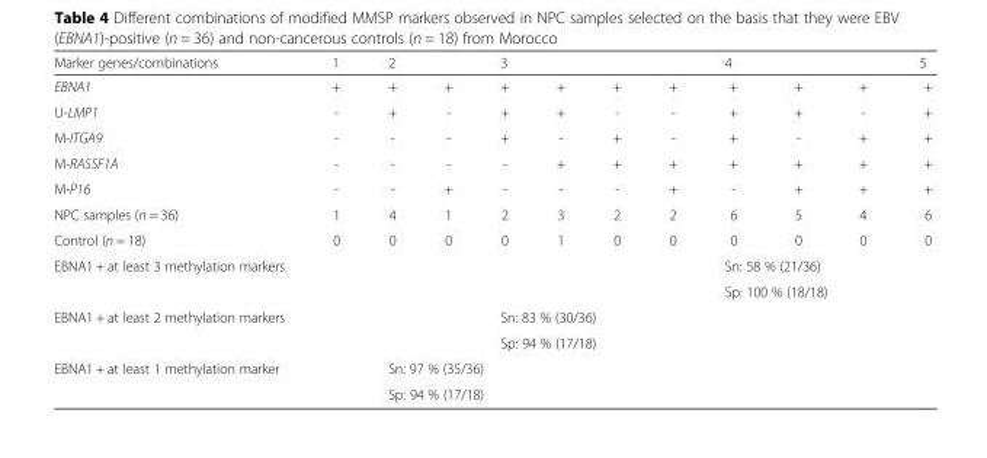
<table><thead><tr><td rowspan="2">Marker genes/combinations EBNA1</td><td rowspan="2">1 +</td><td colspan="2">2</td><td colspan="4">3</td><td colspan="3">4</td><td rowspan="2">5 +</td></tr><tr><td>+</td><td>+</td><td>+</td><td>+</td><td>+</td><td>+</td><td>+</td><td>+</td><td>+</td></tr></thead><tbody><tr><td>U-LMP1</td><td>-</td><td>+</td><td>-</td><td>+</td><td>+</td><td>-</td><td>-</td><td>+</td><td>+</td><td>-</td><td>+</td></tr><tr><td>M-ITGA9</td><td>-</td><td>-</td><td>-</td><td>+</td><td>-</td><td>+</td><td>-</td><td>+</td><td>-</td><td>+</td><td>+</td></tr><tr><td>M-RASSF1A</td><td>-</td><td>-</td><td>-</td><td>-</td><td>+</td><td>+</td><td>+</td><td>+</td><td>+</td><td>+</td><td>+</td></tr><tr><td>M-P16</td><td>-</td><td>-</td><td>+</td><td>-</td><td>-</td><td>-</td><td>+</td><td>-</td><td>+</td><td>+</td><td>+</td></tr><tr><td>NPC samples (n = 36)</td><td>1</td><td>4</td><td>1</td><td>2</td><td>3</td><td>2</td><td>2</td><td>6</td><td>5</td><td>4</td><td>6</td></tr><tr><td>Control (n = 18)</td><td>0</td><td>0</td><td>0</td><td>0</td><td>1</td><td>0</td><td>0</td><td>0</td><td>0</td><td>0</td><td>0</td></tr><tr><td rowspan="2">EBNA1 + at least 3 methylation markers</td><td rowspan="2"></td><td rowspan="2"></td><td rowspan="2"></td><td rowspan="2"></td><td rowspan="2"></td><td rowspan="2"></td><td rowspan="2"></td><td colspan="4">Sn: 58 % (21/36)</td></tr><tr><td colspan="4">Sp: 100 % (18/18)</td></tr><tr><td rowspan="2">EBNA1 + at least 2 methylation markers</td><td rowspan="2"></td><td rowspan="2"></td><td rowspan="2"></td><td colspan="8">Sn: 83 % (30/36)</td></tr><tr><td colspan="8">Sp: 94 % (17/18)</td></tr><tr><td rowspan="2">EBNA1 + at least 1 methylation marker</td><td rowspan="2"></td><td colspan="10">Sn: 97 % (35/36)</td></tr><tr><td colspan="10">Sp: 94 % (17/18)</td></tr></tbody></table>